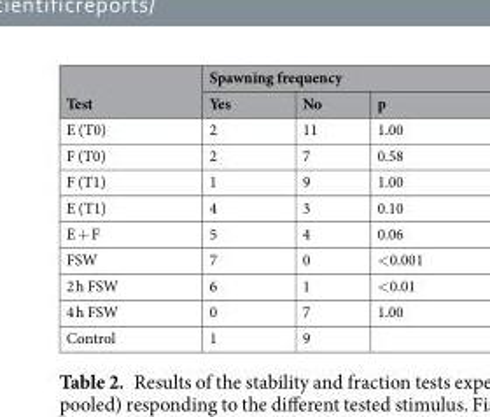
<table><thead><tr><td rowspan="2">Test</td><td colspan="3">Spawning frequency</td></tr><tr><td>Yes</td><td>No</td><td>p</td></tr></thead><tbody><tr><td>E (T0)</td><td>2</td><td>11</td><td>1.00</td></tr><tr><td>F (T0)</td><td>2</td><td>7</td><td>0.58</td></tr><tr><td>F (T1)</td><td>1</td><td>9</td><td>1.00</td></tr><tr><td>E (T1)</td><td>4</td><td>3</td><td>0.10</td></tr><tr><td>E + F</td><td>5</td><td>4</td><td>0.06</td></tr><tr><td>FSW</td><td>7</td><td>0</td><td>&lt;0.001</td></tr><tr><td>2 h FSW</td><td>6</td><td>1</td><td>&lt;0.01</td></tr><tr><td>4 h FSW</td><td>0</td><td>7</td><td>1.00</td></tr><tr><td>Control</td><td>1</td><td>9</td><td></td></tr></tbody></table>